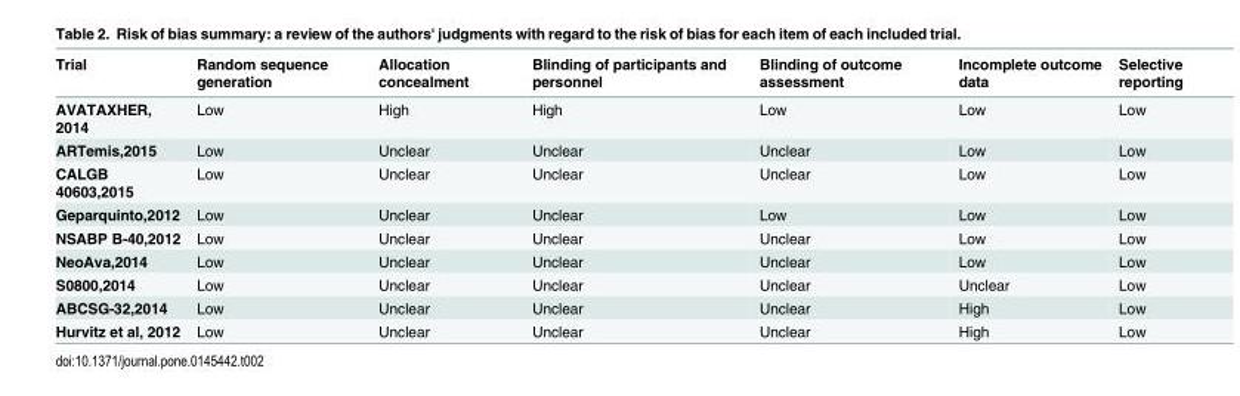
<table><thead><tr><td>Trial</td><td>Random sequence generation</td><td>Allocation concealment</td><td>Blinding of participants and personnel</td><td>Blinding of outcome assessment</td><td>Incomplete outcome data</td><td>Selective reporting</td></tr></thead><tbody><tr><td>AVATAXHER, 2014</td><td>Low</td><td>High</td><td>High</td><td>Low</td><td>Low</td><td>Low</td></tr><tr><td>ARTemis,2015</td><td>Low</td><td>Unclear</td><td>Unclear</td><td>Unclear</td><td>Low</td><td>Low</td></tr><tr><td>CALGB 40603,2015</td><td>Low</td><td>Unclear</td><td>Unclear</td><td>Unclear</td><td>Low</td><td>Low</td></tr><tr><td>Geparquinto,2012</td><td>Low</td><td>Unclear</td><td>Unclear</td><td>Low</td><td>Low</td><td>Low</td></tr><tr><td>NSABP B-40,2012</td><td>Low</td><td>Unclear</td><td>Unclear</td><td>Unclear</td><td>Low</td><td>Low</td></tr><tr><td>NeoAva,2014</td><td>Low</td><td>Unclear</td><td>Unclear</td><td>Unclear</td><td>Low</td><td>Low</td></tr><tr><td>S0800,2014</td><td>Low</td><td>Unclear</td><td>Unclear</td><td>Unclear</td><td>Unclear</td><td>Low</td></tr><tr><td>ABCSG-32,2014</td><td>Low</td><td>Unclear</td><td>Unclear</td><td>Unclear</td><td>High</td><td>Low</td></tr><tr><td>Hurvitz et al, 2012</td><td>Low</td><td>Unclear</td><td>Unclear</td><td>Unclear</td><td>High</td><td>Low</td></tr></tbody></table>